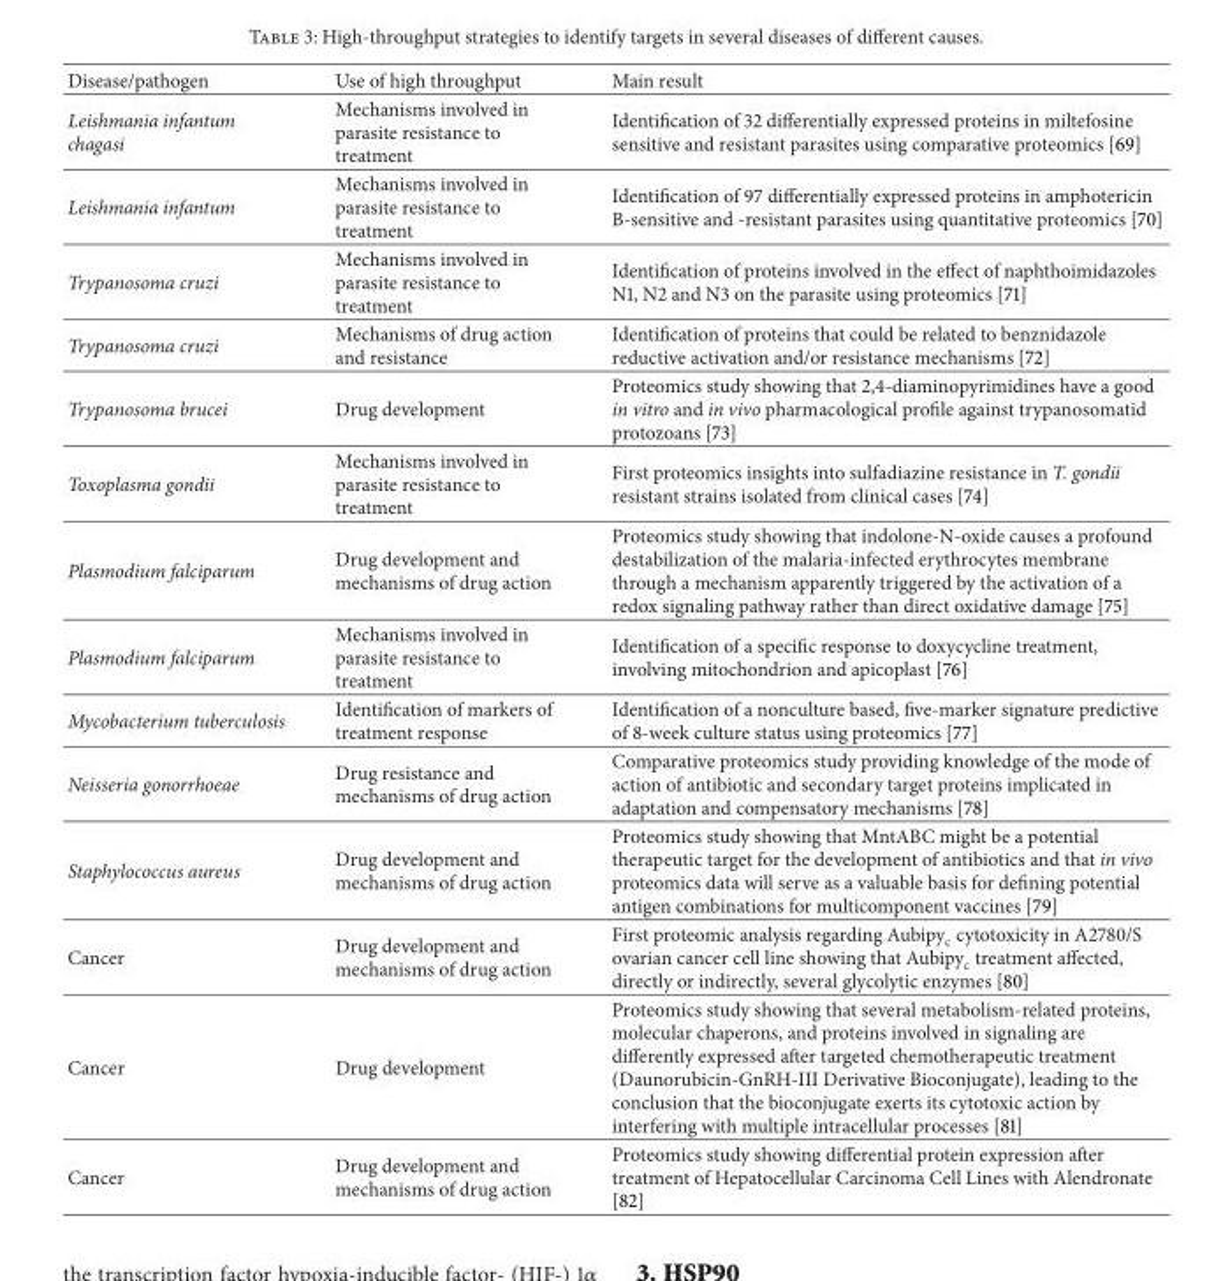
<table><thead><tr><td>Disease/pathogen</td><td>Use of high throughput</td><td>Main result</td></tr></thead><tbody><tr><td>Leishmania infantum chagasi</td><td>Mechanisms involved in parasite resistance to treatment</td><td>Identification of 32 differentially expressed proteins in miltefosine sensitive and resistant parasites using comparative proteomics [69]</td></tr><tr><td>Leishmania infantum</td><td>Mechanisms involved in parasite resistance to treatment</td><td>Identification of 97 differentially expressed proteins in amphotericin B-sensitive and -resistant parasites using quantitative proteomics [70]</td></tr><tr><td>Trypanosoma cruzi</td><td>Mechanisms involved in parasite resistance to treatment</td><td>Identification of proteins involved in the effect of naphthoimidazoles N1, N2 and N3 on the parasite using proteomics [71]</td></tr><tr><td>Trypanosoma cruzi</td><td>Mechanisms of drug action and resistance</td><td>Identification of proteins that could be related to benznidazole reductive activation and/or resistance mechanisms [72]</td></tr><tr><td>Trypanosoma brucei</td><td>Drug development</td><td>Proteomics study showing that 2,4-diaminopyrimidines have a good in vitro and in vivo pharmacological profile against trypanosomatid protozoans [73]</td></tr><tr><td>Toxoplasma gondii</td><td>Mechanisms involved in parasite resistance to treatment</td><td>First proteomics insights into sulfadiazine resistance in T. gondii resistant strains isolated from clinical cases [74]</td></tr><tr><td>Plasmodium falciparum</td><td>Drug development and mechanisms of drug action</td><td>Proteomics study showing that indolone-N-oxide causes a profound destabilization of the malaria-infected erythrocytes membrane through a mechanism apparently triggered by the activation of a redox signaling pathway rather than direct oxidative damage [75]</td></tr><tr><td>Plasmodium falciparum</td><td>Mechanisms involved in parasite resistance to treatment</td><td>Identification of a specific response to doxycycline treatment, involving mitochondrion and apicoplast [76]</td></tr><tr><td>Mycobacterium tuberculosis</td><td>Identification of markers of treatment response</td><td>Identification of a nonculture based, five-marker signature predictive of 8-week culture status using proteomics [77]</td></tr><tr><td>Neisseria gonorrhoeae</td><td>Drug resistance and mechanisms of drug action</td><td>Comparative proteomics study providing knowledge of the mode of action of antibiotic and secondary target proteins implicated in adaptation and compensatory mechanisms [78]</td></tr><tr><td>Staphylococcus aureus</td><td>Drug development and mechanisms of drug action</td><td>Proteomics study showing that MntABC might be a potential therapeutic target for the development of antibiotics and that in vivo proteomics data will serve as a valuable basis for defining potential antigen combinations for multicomponent vaccines [79]</td></tr><tr><td>Cancer</td><td>Drug development and mechanisms of drug action</td><td>First proteomic analysis regarding Aubipy<sub>c</sub> cytotoxicity in A2780/S ovarian cancer cell line showing that Aubipy<sub>c</sub> treatment affected, directly or indirectly, several glycolytic enzymes [80]</td></tr><tr><td>Cancer</td><td>Drug development</td><td>Proteomics study showing that several metabolism-related proteins, molecular chaperons, and proteins involved in signaling are differently expressed after targeted chemotherapeutic treatment (Daunorubicin-GnRH-III Derivative Bioconjugate), leading to the conclusion that the bioconjugate exerts its cytotoxic action by interfering with multiple intracellular processes [81]</td></tr><tr><td>Cancer</td><td>Drug development and mechanisms of drug action</td><td>Proteomics study showing differential protein expression after treatment of Hepatocellular Carcinoma Cell Lines with Alendronate [82]</td></tr></tbody></table>